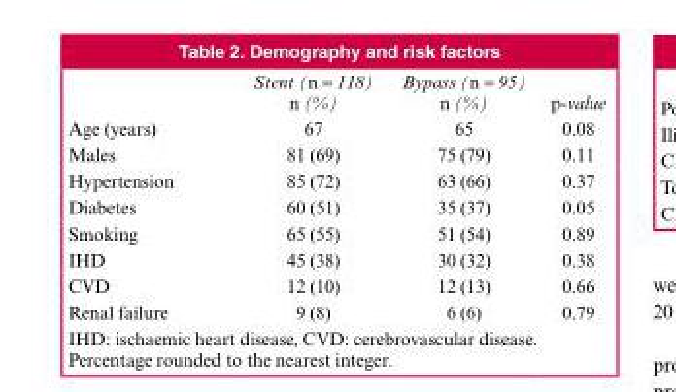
<table><thead><tr><td></td><td>Stent (n = 118) n (%)</td><td>Bypass (n = 95) n (%)</td><td>p-value</td></tr></thead><tbody><tr><td>Age (years)</td><td>67</td><td>65</td><td>0.08</td></tr><tr><td>Males</td><td>81 (69)</td><td>75 (79)</td><td>0.11</td></tr><tr><td>Hypertension</td><td>85 (72)</td><td>63 (66)</td><td>0.37</td></tr><tr><td>Diabetes</td><td>60 (51)</td><td>35 (37)</td><td>0.05</td></tr><tr><td>Smoking</td><td>65 (55)</td><td>51 (54)</td><td>0.89</td></tr><tr><td>IHD</td><td>45 (38)</td><td>30 (32)</td><td>0.38</td></tr><tr><td>CVD</td><td>12 (10)</td><td>12 (13)</td><td>0.66</td></tr><tr><td>Renal failure</td><td>9 (8)</td><td>6 (6)</td><td>0.79</td></tr></tbody></table>